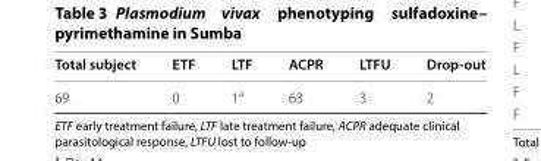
<table><thead><tr><td>Total subject</td><td>ETF</td><td>LTF</td><td>ACPR</td><td>LTFU</td><td>Drop-out</td></tr></thead><tbody><tr><td>69</td><td>0</td><td>1<sup>a</sup></td><td>63</td><td>3</td><td>2</td></tr></tbody></table>